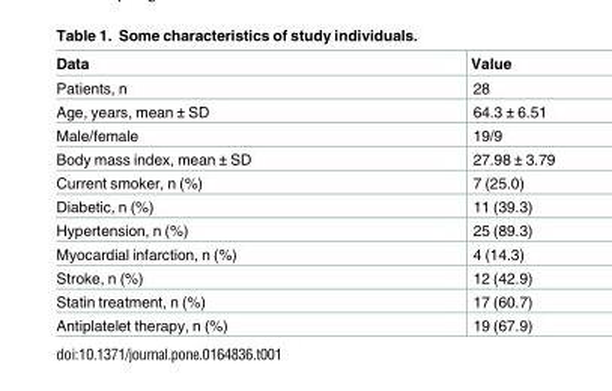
<table><thead><tr><td>Data</td><td>Value</td></tr></thead><tbody><tr><td>Patients, n</td><td>28</td></tr><tr><td>Age, years, mean ± SD</td><td>64.3 ± 6.51</td></tr><tr><td>Male/female</td><td>19/9</td></tr><tr><td>Body mass index, mean ± SD</td><td>27.98 ± 3.79</td></tr><tr><td>Current smoker, n (%)</td><td>7 (25.0)</td></tr><tr><td>Diabetic, n (%)</td><td>11 (39.3)</td></tr><tr><td>Hypertension, n (%)</td><td>25 (89.3)</td></tr><tr><td>Myocardial infarction, n (%)</td><td>4 (14.3)</td></tr><tr><td>Stroke, n (%)</td><td>12 (42.9)</td></tr><tr><td>Statin treatment, n (%)</td><td>17 (60.7)</td></tr><tr><td>Antiplatelet therapy, n (%)</td><td>19 (67.9)</td></tr></tbody></table>